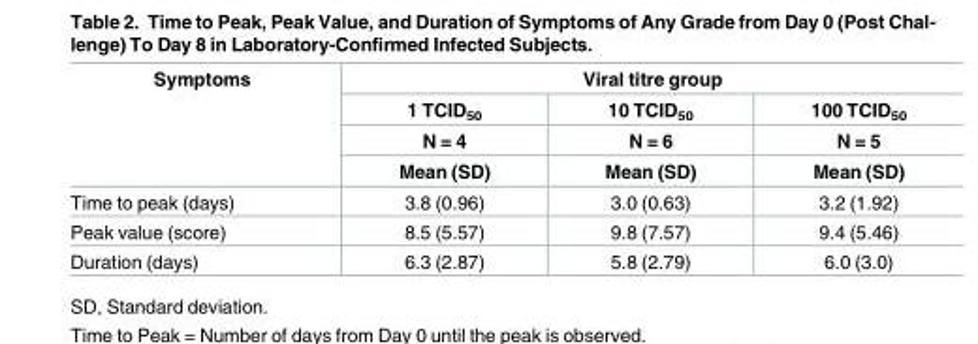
<table><thead><tr><td rowspan="4">Symptoms</td><td colspan="3">Viral titre group</td></tr><tr><td rowspan="3">1 TCID<sub>50</sub> N = 4 Mean (SD)</td><td rowspan="3">10 TCID<sub>50</sub> N = 6 Mean (SD)</td><td rowspan="3">100 TCID<sub>50</sub> N = 5 Mean (SD)</td></tr><tr></tr><tr></tr></thead><tbody><tr><td>Time to peak (days)</td><td>3.8 (0.96)</td><td>3.0 (0.63)</td><td>3.2 (1.92)</td></tr><tr><td>Peak value (score)</td><td>8.5 (5.57)</td><td>9.8 (7.57)</td><td>9.4 (5.46)</td></tr><tr><td>Duration (days)</td><td>6.3 (2.87)</td><td>5.8 (2.79)</td><td>6.0 (3.0)</td></tr></tbody></table>